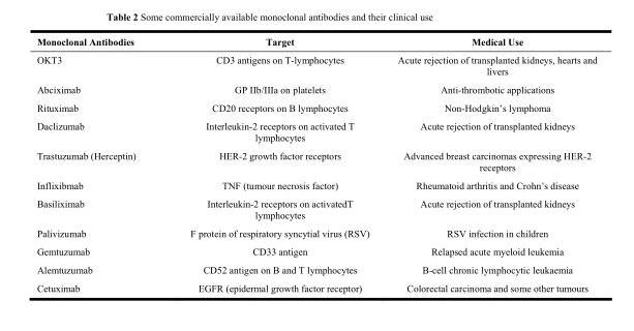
<table><thead><tr><td>Monoclonal Antibodies</td><td>Target</td><td>Medical Use</td></tr></thead><tbody><tr><td>OKT3</td><td>CD3 antigens on T-lymphocytes</td><td>Acute rejection of transplanted kidneys, hearts and livers</td></tr><tr><td>Abciximab</td><td>GP IIb/IIIa on platelets</td><td>Anti-thrombotic applications</td></tr><tr><td>Rituximab</td><td>CD20 receptors on B lymphocytes</td><td>Non-Hodgkin’s lymphoma</td></tr><tr><td>Daclizumab</td><td>Interleukin-2 receptors on activated T lymphocytes</td><td>Acute rejection of transplanted kidneys</td></tr><tr><td>Trastuzumab (Herceptin)</td><td>HER-2 growth factor receptors</td><td>Advanced breast carcinomas expressing HER-2 receptors</td></tr><tr><td>Inflixibmab</td><td>TNF (tumour necrosis factor)</td><td>Rheumatoid arthritis and Crohn’s disease</td></tr><tr><td>Basiliximab</td><td>Interleukin-2 receptors on activatedT lymphocytes</td><td>Acute rejection of transplanted kidneys</td></tr><tr><td>Palivizumab</td><td>F protein of respiratory syncytial virus (RSV)</td><td>RSV infection in children</td></tr><tr><td>Gemtuzumab</td><td>CD33 antigen</td><td>Relapsed acute myeloid leukemia</td></tr><tr><td>Alemtuzumab</td><td>CD52 antigen on B and T lymphocytes</td><td>B-cell chronic lymphocytic leukaemia</td></tr><tr><td>Cetuximab</td><td>EGFR (epidermal growth factor receptor)</td><td>Colorectal carcinoma and some other tumours</td></tr></tbody></table>